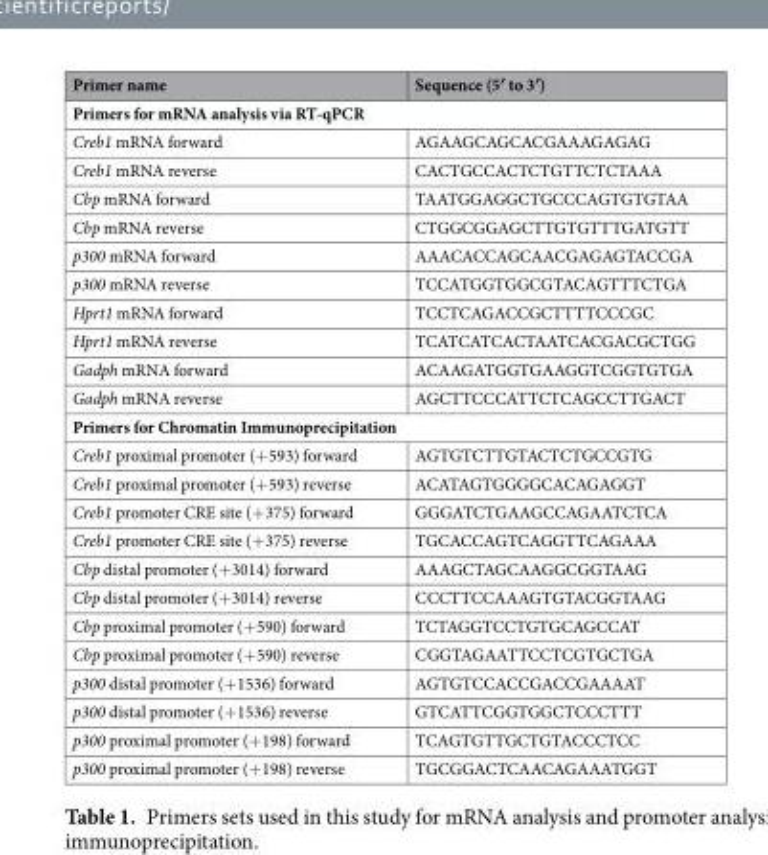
<table><thead><tr><td>Primer name</td><td>Sequence (5′ to 3′)</td></tr></thead><tbody><tr><td colspan="2">Primers for mRNA analysis via RT-qPCR</td></tr><tr><td>Creb1 mRNA forward</td><td>AGAAGCAGCACGAAAGAGAG</td></tr><tr><td>Creb1 mRNA reverse</td><td>CACTGCCACTCTGTTCTCTAAA</td></tr><tr><td>Cbp mRNA forward</td><td>TAATGGAGGCTGCCCAGTGTGTAA</td></tr><tr><td>Cbp mRNA reverse</td><td>CTGGCGGAGCTTGTGTTTGATGTT</td></tr><tr><td>p300 mRNA forward</td><td>AAACACCAGCAACGAGAGTACCGA</td></tr><tr><td>p300 mRNA reverse</td><td>TCCATGGTGGCGTACAGTTTCTGA</td></tr><tr><td>Hprt1 mRNA forward</td><td>TCCTCAGACCGCTTTTCCCGC</td></tr><tr><td>Hprt1 mRNA reverse</td><td>TCATCATCACTAATCACGACGCTGG</td></tr><tr><td>Gadph mRNA forward</td><td>ACAAGATGGTGAAGGTCGGTGTGA</td></tr><tr><td>Gadph mRNA reverse</td><td>AGCTTCCCATTCTCAGCCTTGACT</td></tr><tr><td colspan="2">Primers for Chromatin Immunoprecipitation</td></tr><tr><td>Creb1 proximal promoter (+593) forward</td><td>AGTGTCTTGTACTCTGCCGTG</td></tr><tr><td>Creb1 proximal promoter (+593) reverse</td><td>ACATAGTGGGGCACAGAGGT</td></tr><tr><td>Creb1 promoter CRE site (+375) forward</td><td>GGGATCTGAAGCCAGAATCTCA</td></tr><tr><td>Creb1 promoter CRE site (+375) reverse</td><td>TGCACCAGTCAGGTTCAGAAA</td></tr><tr><td>Cbp distal promoter (+3014) forward</td><td>AAAGCTAGCAAGGCGGTAAG</td></tr><tr><td>Cbp distal promoter (+3014) reverse</td><td>CCCTTCCAAAGTGTACGGTAAG</td></tr><tr><td>Cbp proximal promoter (+590) forward</td><td>TCTAGGTCCTGTGCAGCCAT</td></tr><tr><td>Cbp proximal promoter (+590) reverse</td><td>CGGTAGAATTCCTCGTGCTGA</td></tr><tr><td>p300 distal promoter (+1536) forward</td><td>AGTGTCCACCGACCGAAAAT</td></tr><tr><td>p300 distal promoter (+1536) reverse</td><td>GTCATTCGGTGGCTCCCTTT</td></tr><tr><td>p300 proximal promoter (+198) forward</td><td>TCAGTGTTGCTGTACCCTCC</td></tr><tr><td>p300 proximal promoter (+198) reverse</td><td>TGCGGACTCAACAGAAATGGT</td></tr></tbody></table>